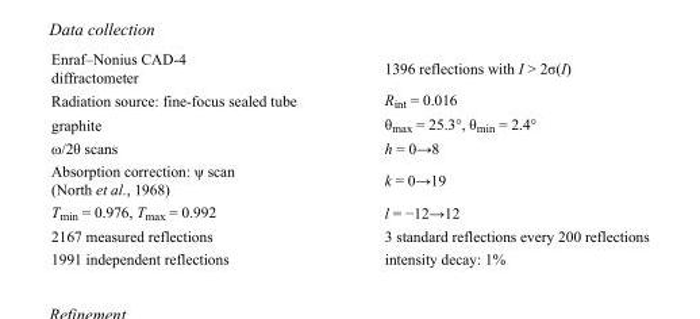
<table><tbody><tr><td>Enraf–Nonius CAD-4 diffractometer</td><td>1396 reflections with I &gt; 2σ(I)</td></tr><tr><td>Radiation source: fine-focus sealed tube</td><td>R<sub>int</sub> = 0.016</td></tr><tr><td>graphite</td><td>θ<sub>max</sub> = 25.3°, θ<sub>min</sub> = 2.4°</td></tr><tr><td>ω/2θ scans</td><td>h = 0→8</td></tr><tr><td>Absorption correction: ψ scan (North et al., 1968)</td><td>k = 0→19</td></tr><tr><td>T<sub>min</sub> = 0.976, T<sub>max</sub> = 0.992</td><td>l = −12→12</td></tr><tr><td>2167 measured reflections</td><td>3 standard reflections every 200 reflections</td></tr><tr><td>1991 independent reflections</td><td>intensity decay: 1%</td></tr></tbody></table>